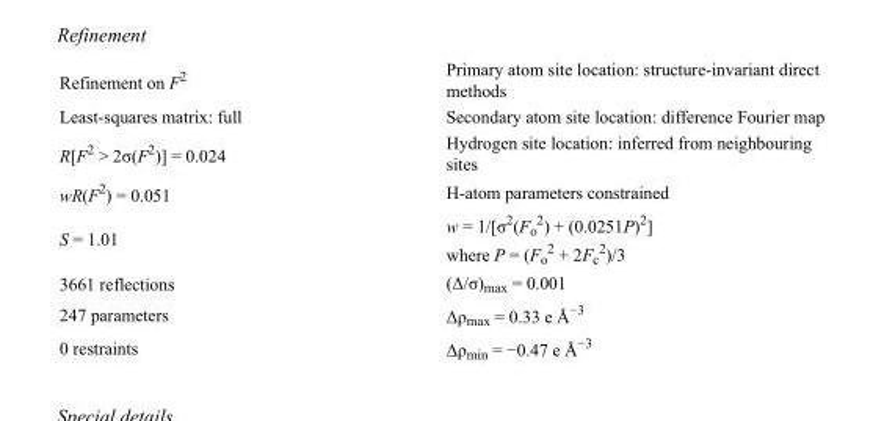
<table><tbody><tr><td>Refinement on F<sup>2</sup></td><td>Primary atom site location: structure-invariant direct methods</td></tr><tr><td>Least-squares matrix: full</td><td>Secondary atom site location: difference Fourier map</td></tr><tr><td>R[F<sup>2</sup> &gt; 2σ(F<sup>2</sup>)] = 0.024</td><td>Hydrogen site location: inferred from neighbouring sites</td></tr><tr><td>wR(F<sup>2</sup>) = 0.051</td><td>H-atom parameters constrained</td></tr><tr><td>S = 1.01</td><td>w = 1/[σ<sup>2</sup>(F<sub>o</sub> <sup>2</sup>) + (0.0251P)<sup>2</sup>] where P = (F<sub>o</sub> <sup>2</sup> + 2F<sub>c</sub> <sup>2</sup>)/3</td></tr><tr><td>3661 reflections</td><td>(Δ/σ)<sub>max</sub> = 0.001</td></tr><tr><td>247 parameters</td><td>Δρ<sub>max</sub> = 0.33 e Å<sup>−3</sup></td></tr><tr><td>0 restraints</td><td>Δρ<sub>min</sub> = −0.47 e Å<sup>−3</sup></td></tr></tbody></table>